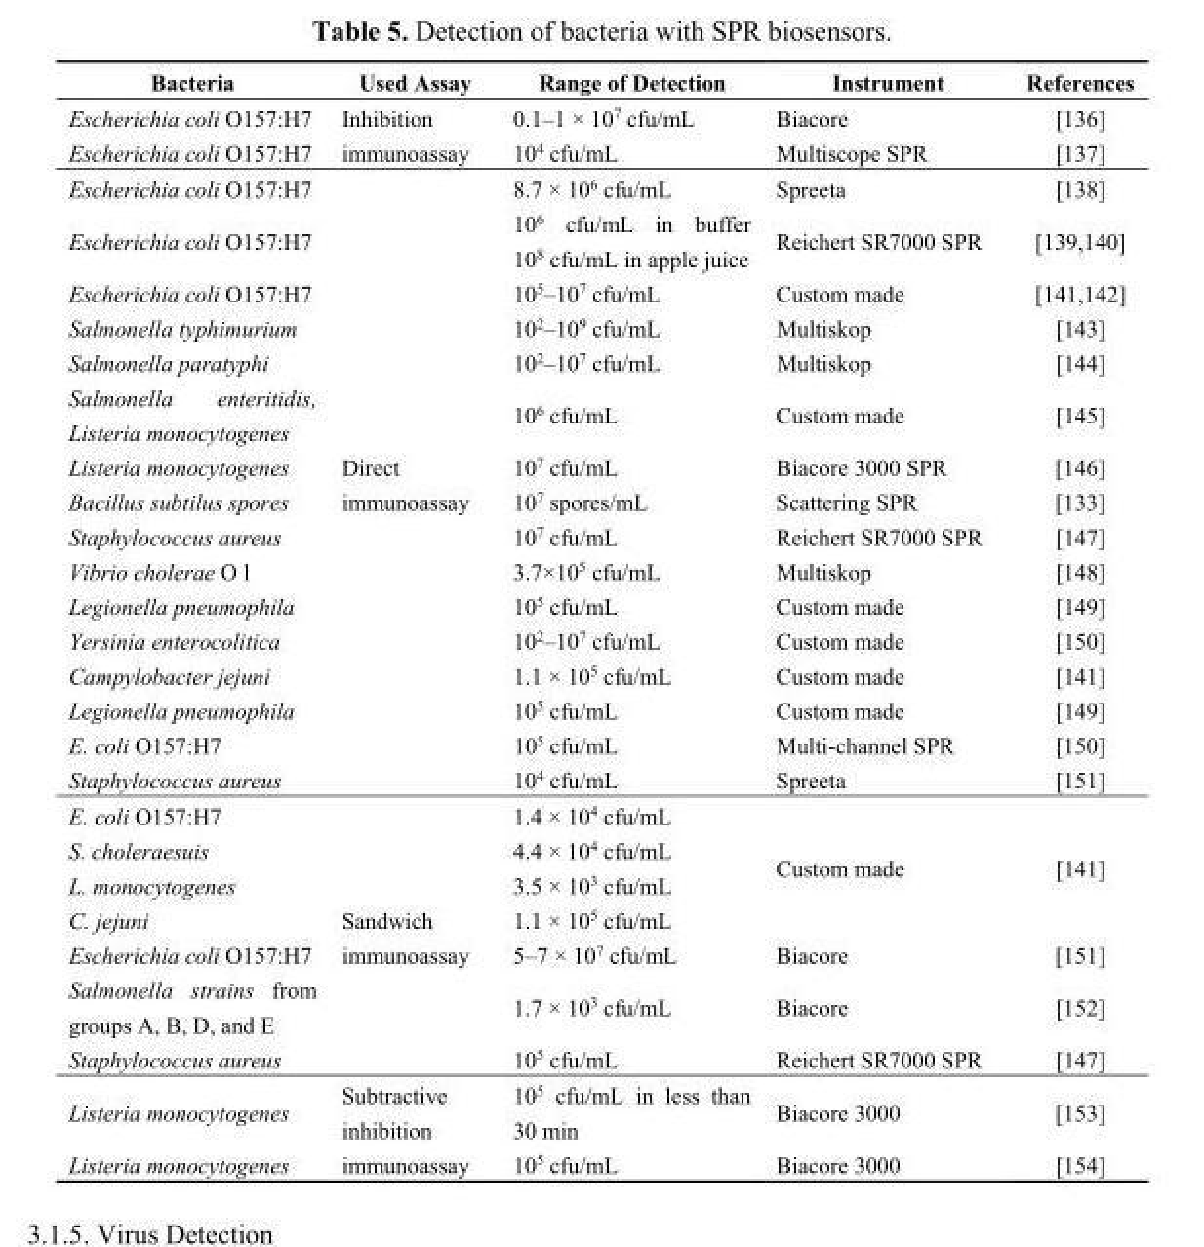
<table><thead><tr><td>Bacteria</td><td>Used Assay</td><td>Range of Detection</td><td>Instrument</td><td>References</td></tr></thead><tbody><tr><td>Escherichia coli O157:H7</td><td rowspan="2">Inhibition immunoassay</td><td>0.1–1 × 10<sup>7</sup> cfu/mL</td><td>Biacore</td><td>[136]</td></tr><tr><td>Escherichia coli O157:H7</td><td>10<sup>4</sup> cfu/mL</td><td>Multiscope SPR</td><td>[137]</td></tr><tr><td>Escherichia coli O157:H7</td><td rowspan="16">Direct immunoassay</td><td>8.7 × 10<sup>6</sup> cfu/mL</td><td>Spreeta</td><td>[138]</td></tr><tr><td>Escherichia coli O157:H7</td><td>10<sup>6</sup> cfu/mL in buffer 10<sup>8</sup> cfu/mL in apple juice</td><td>Reichert SR7000 SPR</td><td>[139,140]</td></tr><tr><td>Escherichia coli O157:H7</td><td>10<sup>5</sup>–10<sup>7</sup> cfu/mL</td><td>Custom made</td><td>[141,142]</td></tr><tr><td>Salmonella typhimurium</td><td>10<sup>2</sup>–10<sup>9</sup> cfu/mL</td><td>Multiskop</td><td>[143]</td></tr><tr><td>Salmonella paratyphi</td><td>10<sup>2</sup>–10<sup>7</sup> cfu/mL</td><td>Multiskop</td><td>[144]</td></tr><tr><td>Salmonella enteritidis, Listeria monocytogenes</td><td>10<sup>6</sup> cfu/mL</td><td>Custom made</td><td>[145]</td></tr><tr><td>Listeria monocytogenes</td><td>10<sup>7</sup> cfu/mL</td><td>Biacore 3000 SPR</td><td>[146]</td></tr><tr><td>Bacillus subtilus spores</td><td>10<sup>7</sup> spores/mL</td><td>Scattering SPR</td><td>[133]</td></tr><tr><td>Staphylococcus aureus</td><td>10<sup>7</sup> cfu/mL</td><td>Reichert SR7000 SPR</td><td>[147]</td></tr><tr><td>Vibrio cholerae O l</td><td>3.7×10<sup>5</sup> cfu/mL</td><td>Multiskop</td><td>[148]</td></tr><tr><td>Legionella pneumophila</td><td>10<sup>5</sup> cfu/mL</td><td>Custom made</td><td>[149]</td></tr><tr><td>Yersinia enterocolitica</td><td>10<sup>2</sup>–10<sup>7</sup> cfu/mL</td><td>Custom made</td><td>[150]</td></tr><tr><td>Campylobacter jejuni</td><td>1.1 × 10<sup>5</sup> cfu/mL</td><td>Custom made</td><td>[141]</td></tr><tr><td>Legionella pneumophila</td><td>10<sup>5</sup> cfu/mL</td><td>Custom made</td><td>[149]</td></tr><tr><td>E. coli O157:H7</td><td>10<sup>5</sup> cfu/mL</td><td>Multi-channel SPR</td><td>[150]</td></tr><tr><td>Staphylococcus aureus</td><td>10<sup>4</sup> cfu/mL</td><td>Spreeta</td><td>[151]</td></tr><tr><td>E. coli O157:H7</td><td rowspan="7">Sandwich immunoassay</td><td>1.4 × 10<sup>4</sup> cfu/mL</td><td rowspan="4">Custom made</td><td rowspan="4">[141]</td></tr><tr><td>S. choleraesuis</td><td>4.4 × 10<sup>4</sup> cfu/mL</td></tr><tr><td>L. monocytogenes</td><td>3.5 × 10<sup>3</sup> cfu/mL</td></tr><tr><td>C. jejuni</td><td>1.1 × 10<sup>5</sup> cfu/mL</td></tr><tr><td>Escherichia coli O157:H7</td><td>5–7 × 10<sup>7</sup> cfu/mL</td><td>Biacore</td><td>[151]</td></tr><tr><td>Salmonella strains from groups A, B, D, and E</td><td>1.7 × 10<sup>3</sup> cfu/mL</td><td>Biacore</td><td>[152]</td></tr><tr><td>Staphylococcus aureus</td><td>10<sup>5</sup> cfu/mL</td><td>Reichert SR7000 SPR</td><td>[147]</td></tr><tr><td>Listeria monocytogenes</td><td rowspan="2">Subtractive inhibition immunoassay</td><td>10<sup>5</sup> cfu/mL in less than 30 min</td><td>Biacore 3000</td><td>[153]</td></tr><tr><td>Listeria monocytogenes</td><td>10<sup>5</sup> cfu/mL</td><td>Biacore 3000</td><td>[154]</td></tr></tbody></table>